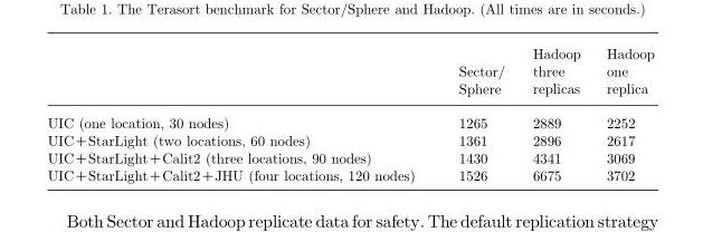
<table><thead><tr><td></td><td>Sector/ Sphere</td><td>Hadoop three replicas</td><td>Hadoop one replica</td></tr></thead><tbody><tr><td>UIC (one location, 30 nodes)</td><td>1265</td><td>2889</td><td>2252</td></tr><tr><td>UIC+StarLight (two locations, 60 nodes)</td><td>1361</td><td>2896</td><td>2617</td></tr><tr><td>UIC+StarLight+Calit2 (three locations, 90 nodes)</td><td>1430</td><td>4341</td><td>3069</td></tr><tr><td>UIC+StarLight+Calit2+JHU (four locations, 120 nodes)</td><td>1526</td><td>6675</td><td>3702</td></tr></tbody></table>